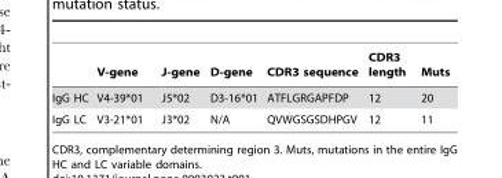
<table><thead><tr><td></td><td>V-gene</td><td>J-gene</td><td>D-gene</td><td>CDR3 sequence</td><td>CDR3 length</td><td>Muts</td></tr></thead><tbody><tr><td>IgG HC</td><td>V4-39*01</td><td>J5*02</td><td>D3-16*01</td><td>ATFLGRGAPFDP</td><td>12</td><td>20</td></tr><tr><td>IgG LC</td><td>V3-21*01</td><td>J3*02</td><td>N/A</td><td>QVWGSGSDHPGV</td><td>12</td><td>11</td></tr></tbody></table>